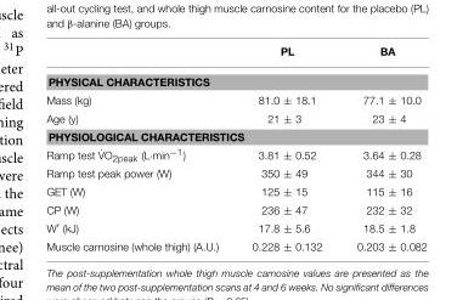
<table><thead><tr><td></td><td>PL</td><td>BA</td></tr></thead><tbody><tr><td colspan="3">PHYSICAL CHARACTERISTICS</td></tr><tr><td>Mass (kg)</td><td>81.0 ± 18.1</td><td>77.1 ± 10.0</td></tr><tr><td>Age (y)</td><td>21 ± 3</td><td>23 ± 4</td></tr><tr><td colspan="3">PHYSIOLOGICAL CHARACTERISTICS</td></tr><tr><td>Ramp test ˙VO2peak (L·min−1)</td><td>3.81 ± 0.52</td><td>3.64 ± 0.28</td></tr><tr><td>Ramp test peak power (W)</td><td>350 ± 49</td><td>344 ± 30</td></tr><tr><td>GET (W)</td><td>125 ± 15</td><td>115 ± 16</td></tr><tr><td>CP (W)</td><td>236 ± 47</td><td>232 ± 32</td></tr><tr><td>W′ (kJ)</td><td>17.8 ± 5.6</td><td>18.5 ± 1.8</td></tr><tr><td>Muscle carnosine (whole thigh) (A.U.)</td><td>0.228 ± 0.132</td><td>0.203 ± 0.082</td></tr></tbody></table>